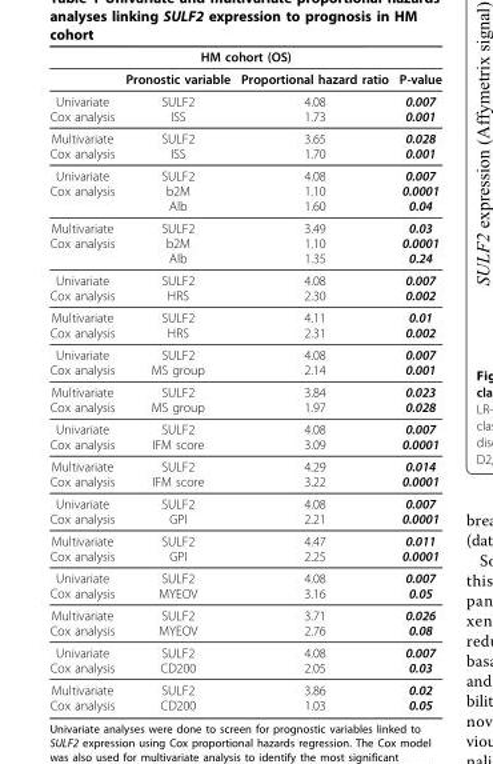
<table><thead><tr><td colspan="4">HM cohort (OS)</td></tr><tr><td></td><td>Pronostic variable</td><td>Proportional hazard ratio</td><td>P-value</td></tr></thead><tbody><tr><td>Univariate Cox analysis</td><td>SULF2 ISS</td><td>4.08 1.73</td><td>0.007 0.001</td></tr><tr><td>Multivariate Cox analysis</td><td>SULF2 ISS</td><td>3.65 1.70</td><td>0.028 0.001</td></tr><tr><td>Univariate Cox analysis</td><td>SULF2 b2M Alb</td><td>4.08 1.10 1.60</td><td>0.007 0.0001 0.04</td></tr><tr><td>Multivariate Cox analysis</td><td>SULF2 b2M Alb</td><td>3.49 1.10 1.35</td><td>0.03 0.0001 0.24</td></tr><tr><td>Univariate Cox analysis</td><td>SULF2 HRS</td><td>4.08 2.30</td><td>0.007 0.002</td></tr><tr><td>Multivariate Cox analysis</td><td>SULF2 HRS</td><td>4.11 2.31</td><td>0.01 0.002</td></tr><tr><td>Univariate Cox analysis</td><td>SULF2 MS group</td><td>4.08 2.14</td><td>0.007 0.001</td></tr><tr><td>Multivariate Cox analysis</td><td>SULF2 MS group</td><td>3.84 1.97</td><td>0.023 0.028</td></tr><tr><td>Univariate Cox analysis</td><td>SULF2 IFM score</td><td>4.08 3.09</td><td>0.007 0.0001</td></tr><tr><td>Multivariate Cox analysis</td><td>SULF2 IFM score</td><td>4.29 3.22</td><td>0.014 0.0001</td></tr><tr><td>Univariate Cox analysis</td><td>SULF2 GPI</td><td>4.08 2.21</td><td>0.007 0.0001</td></tr><tr><td>Multivariate Cox analysis</td><td>SULF2 GPI</td><td>4.47 2.25</td><td>0.011 0.0001</td></tr><tr><td>Univariate Cox analysis</td><td>SULF2 MYEOV</td><td>4.08 3.16</td><td>0.007 0.05</td></tr><tr><td>Multivariate Cox analysis</td><td>SULF2 MYEOV</td><td>3.71 2.76</td><td>0.026 0.08</td></tr><tr><td>Univariate Cox analysis</td><td>SULF2 CD200</td><td>4.08 2.05</td><td>0.007 0.03</td></tr><tr><td>Multivariate Cox analysis</td><td>SULF2 CD200</td><td>3.86 1.03</td><td>0.02 0.05</td></tr></tbody></table>